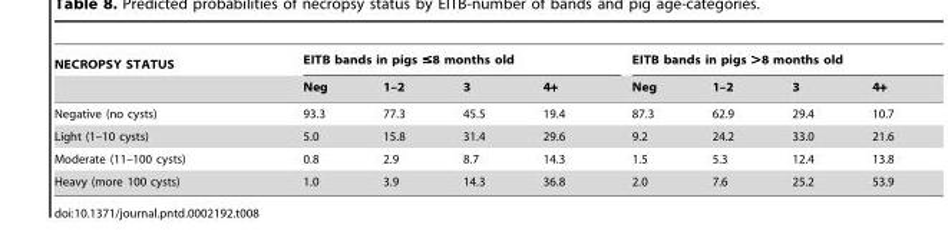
<table><thead><tr><td rowspan="2">NECROPSY STATUS</td><td colspan="4">EITB bands in pigs ≤8 months old</td><td colspan="4">EITB bands in pigs &gt;8 months old</td></tr><tr><td>Neg</td><td>1–2</td><td>3</td><td>4+</td><td>Neg</td><td>1–2</td><td>3</td><td>4+</td></tr></thead><tbody><tr><td>Negative (no cysts)</td><td>93.3</td><td>77.3</td><td>45.5</td><td>19.4</td><td>87.3</td><td>62.9</td><td>29.4</td><td>10.7</td></tr><tr><td>Light (1–10 cysts)</td><td>5.0</td><td>15.8</td><td>31.4</td><td>29.6</td><td>9.2</td><td>24.2</td><td>33.0</td><td>21.6</td></tr><tr><td>Moderate (11–100 cysts)</td><td>0.8</td><td>2.9</td><td>8.7</td><td>14.3</td><td>1.5</td><td>5.3</td><td>12.4</td><td>13.8</td></tr><tr><td>Heavy (more 100 cysts)</td><td>1.0</td><td>3.9</td><td>14.3</td><td>36.8</td><td>2.0</td><td>7.6</td><td>25.2</td><td>53.9</td></tr></tbody></table>